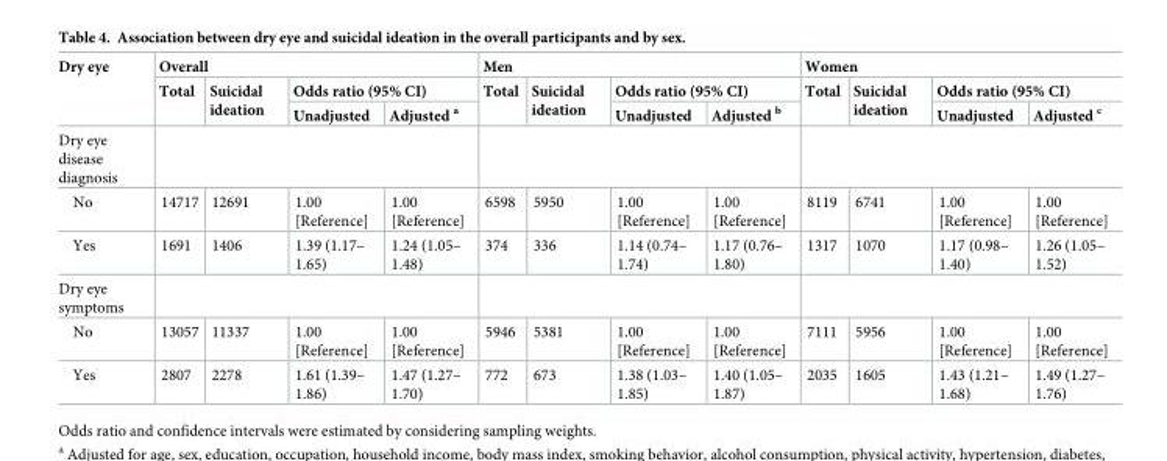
<table><thead><tr><td rowspan="3">Dry eye</td><td colspan="4">Overall</td><td colspan="4">Men</td><td colspan="4">Women</td></tr><tr><td rowspan="2">Total</td><td rowspan="2">Suicidal ideation</td><td colspan="2">Odds ratio (95% CI)</td><td rowspan="2">Total</td><td rowspan="2">Suicidal ideation</td><td colspan="2">Odds ratio (95% CI)</td><td rowspan="2">Total</td><td rowspan="2">Suicidal ideation</td><td colspan="2">Odds ratio (95% CI)</td></tr><tr><td>Unadjusted</td><td>Adjusted <sup>a</sup></td><td>Unadjusted</td><td>Adjusted <sup>b</sup></td><td>Unadjusted</td><td>Adjusted <sup>c</sup></td></tr></thead><tbody><tr><td colspan="13">Dry eye disease diagnosis</td></tr><tr><td>No</td><td>14717</td><td>12691</td><td>1.00 [Reference]</td><td>1.00 [Reference]</td><td>6598</td><td>5950</td><td>1.00 [Reference]</td><td>1.00 [Reference]</td><td>8119</td><td>6741</td><td>1.00 [Reference]</td><td>1.00 [Reference]</td></tr><tr><td>Yes</td><td>1691</td><td>1406</td><td>1.39 (1.17– 1.65)</td><td>1.24 (1.05– 1.48)</td><td>374</td><td>336</td><td>1.14 (0.74– 1.74)</td><td>1.17 (0.76– 1.80)</td><td>1317</td><td>1070</td><td>1.17 (0.98– 1.40)</td><td>1.26 (1.05– 1.52)</td></tr><tr><td colspan="13">Dry eye symptoms</td></tr><tr><td>No</td><td>13057</td><td>11337</td><td>1.00 [Reference]</td><td>1.00 [Reference]</td><td>5946</td><td>5381</td><td>1.00 [Reference]</td><td>1.00 [Reference]</td><td>7111</td><td>5956</td><td>1.00 [Reference]</td><td>1.00 [Reference]</td></tr><tr><td>Yes</td><td>2807</td><td>2278</td><td>1.61 (1.39– 1.86)</td><td>1.47 (1.27– 1.70)</td><td>772</td><td>673</td><td>1.38 (1.03– 1.85)</td><td>1.40 (1.05– 1.87)</td><td>2035</td><td>1605</td><td>1.43 (1.21– 1.68)</td><td>1.49 (1.27– 1.76)</td></tr></tbody></table>